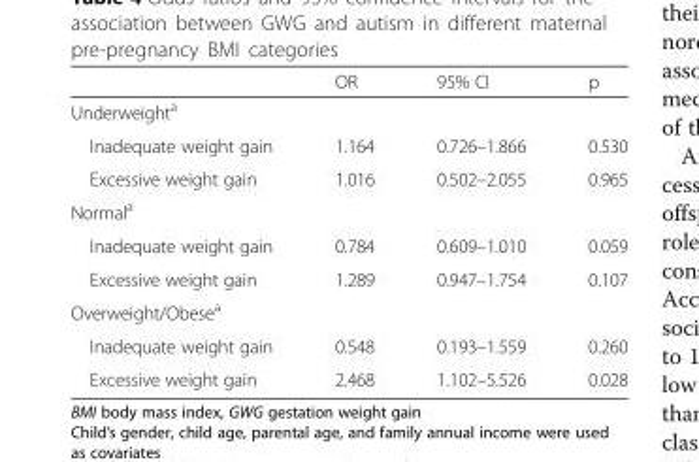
<table><thead><tr><td></td><td>OR</td><td>95% CI</td><td>p</td></tr></thead><tbody><tr><td colspan="4">Underweight<sup>a</sup></td></tr><tr><td>Inadequate weight gain</td><td>1.164</td><td>0.726–1.866</td><td>0.530</td></tr><tr><td>Excessive weight gain</td><td>1.016</td><td>0.502–2.055</td><td>0.965</td></tr><tr><td colspan="4">Normal<sup>a</sup></td></tr><tr><td>Inadequate weight gain</td><td>0.784</td><td>0.609–1.010</td><td>0.059</td></tr><tr><td>Excessive weight gain</td><td>1.289</td><td>0.947–1.754</td><td>0.107</td></tr><tr><td colspan="4">Overweight/Obese<sup>a</sup></td></tr><tr><td>Inadequate weight gain</td><td>0.548</td><td>0.193–1.559</td><td>0.260</td></tr><tr><td>Excessive weight gain</td><td>2.468</td><td>1.102–5.526</td><td>0.028</td></tr></tbody></table>